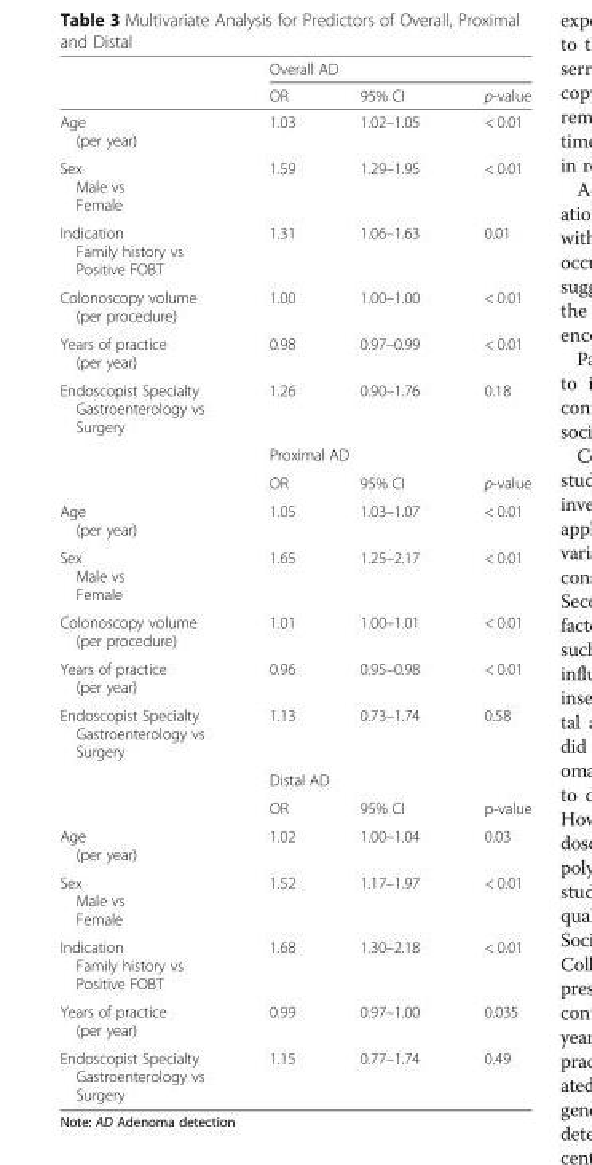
<table><thead><tr><td rowspan="2"></td><td colspan="3">Overall AD</td></tr><tr><td>OR</td><td>95% CI</td><td>p-value</td></tr></thead><tbody><tr><td>Age (per year)</td><td>1.03</td><td>1.02–1.05</td><td>&lt; 0.01</td></tr><tr><td>Sex Male vs Female</td><td>1.59</td><td>1.29–1.95</td><td>&lt; 0.01</td></tr><tr><td>Indication Family history vs Positive FOBT</td><td>1.31</td><td>1.06–1.63</td><td>0.01</td></tr><tr><td>Colonoscopy volume (per procedure)</td><td>1.00</td><td>1.00–1.00</td><td>&lt; 0.01</td></tr><tr><td>Years of practice (per year)</td><td>0.98</td><td>0.97–0.99</td><td>&lt; 0.01</td></tr><tr><td rowspan="3">Endoscopist Specialty Gastroenterology vs Surgery</td><td>1.26</td><td>0.90–1.76</td><td>0.18</td></tr><tr><td colspan="3">Proximal AD</td></tr><tr><td>OR</td><td>95% CI</td><td>p-value</td></tr><tr><td>Age (per year)</td><td>1.05</td><td>1.03–1.07</td><td>&lt; 0.01</td></tr><tr><td>Sex Male vs Female</td><td>1.65</td><td>1.25–2.17</td><td>&lt; 0.01</td></tr><tr><td>Colonoscopy volume (per procedure)</td><td>1.01</td><td>1.00–1.01</td><td>&lt; 0.01</td></tr><tr><td>Years of practice (per year)</td><td>0.96</td><td>0.95–0.98</td><td>&lt; 0.01</td></tr><tr><td rowspan="3">Endoscopist Specialty Gastroenterology vs Surgery</td><td>1.13</td><td>0.73–1.74</td><td>0.58</td></tr><tr><td colspan="3">Distal AD</td></tr><tr><td>OR</td><td>95% CI</td><td>p-value</td></tr><tr><td>Age (per year)</td><td>1.02</td><td>1.00–1.04</td><td>0.03</td></tr><tr><td>Sex Male vs Female</td><td>1.52</td><td>1.17–1.97</td><td>&lt; 0.01</td></tr><tr><td>Indication Family history vs Positive FOBT</td><td>1.68</td><td>1.30–2.18</td><td>&lt; 0.01</td></tr><tr><td>Years of practice (per year)</td><td>0.99</td><td>0.97–1.00</td><td>0.035</td></tr><tr><td>Endoscopist Specialty Gastroenterology vs Surgery</td><td>1.15</td><td>0.77–1.74</td><td>0.49</td></tr></tbody></table>